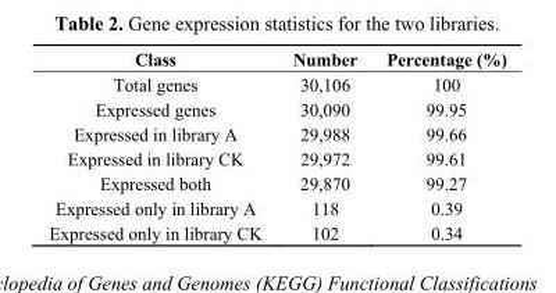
<table><thead><tr><td>Class</td><td>Number</td><td>Percentage (%)</td></tr></thead><tbody><tr><td>Total genes</td><td>30,106</td><td>100</td></tr><tr><td>Expressed genes</td><td>30,090</td><td>99.95</td></tr><tr><td>Expressed in library A</td><td>29,988</td><td>99.66</td></tr><tr><td>Expressed in library CK</td><td>29,972</td><td>99.61</td></tr><tr><td>Expressed both</td><td>29,870</td><td>99.27</td></tr><tr><td>Expressed only in library A</td><td>118</td><td>0.39</td></tr><tr><td>Expressed only in library CK</td><td>102</td><td>0.34</td></tr></tbody></table>